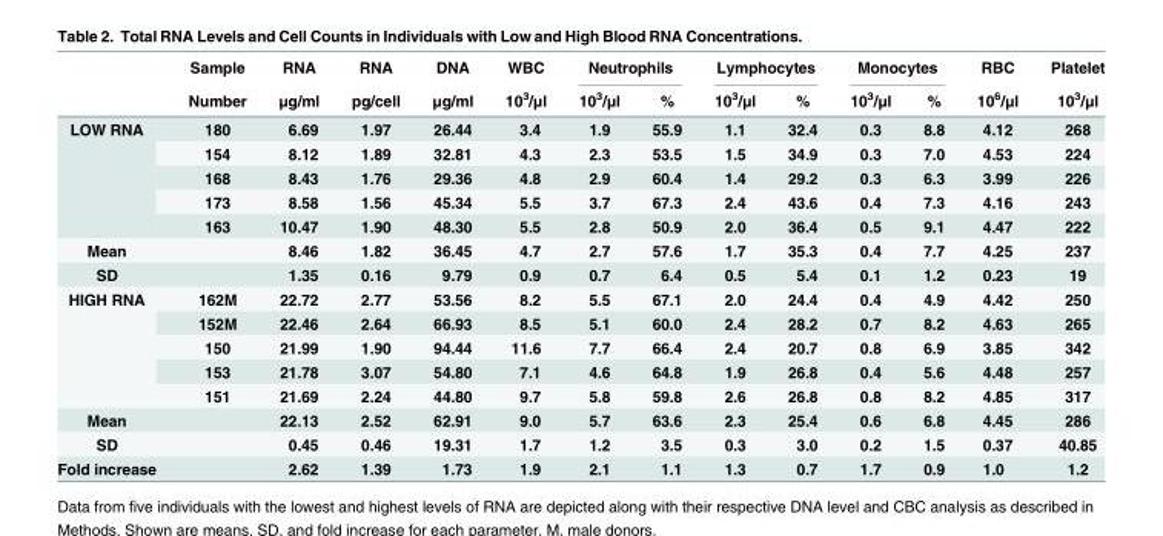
<table><thead><tr><td rowspan="2"></td><td rowspan="2">Sample Number</td><td rowspan="2">RNA μg/ml</td><td rowspan="2">RNA pg/cell</td><td rowspan="2">DNA μg/ml</td><td rowspan="2">WBC 10<sup>3</sup>/μl</td><td colspan="2">Neutrophils</td><td colspan="2">Lymphocytes</td><td colspan="2">Monocytes</td><td rowspan="2">RBC 10<sup>6</sup>/μl</td><td rowspan="2">Platelet 10<sup>3</sup>/μl</td></tr><tr><td>10<sup>3</sup>/μl</td><td>%</td><td>10<sup>3</sup>/μl</td><td>%</td><td>10<sup>3</sup>/μl</td><td>%</td></tr></thead><tbody><tr><td rowspan="5">LOW RNA</td><td>180</td><td>6.69</td><td>1.97</td><td>26.44</td><td>3.4</td><td>1.9</td><td>55.9</td><td>1.1</td><td>32.4</td><td>0.3</td><td>8.8</td><td>4.12</td><td>268</td></tr><tr><td>154</td><td>8.12</td><td>1.89</td><td>32.81</td><td>4.3</td><td>2.3</td><td>53.5</td><td>1.5</td><td>34.9</td><td>0.3</td><td>7.0</td><td>4.53</td><td>224</td></tr><tr><td>168</td><td>8.43</td><td>1.76</td><td>29.36</td><td>4.8</td><td>2.9</td><td>60.4</td><td>1.4</td><td>29.2</td><td>0.3</td><td>6.3</td><td>3.99</td><td>226</td></tr><tr><td>173</td><td>8.58</td><td>1.56</td><td>45.34</td><td>5.5</td><td>3.7</td><td>67.3</td><td>2.4</td><td>43.6</td><td>0.4</td><td>7.3</td><td>4.16</td><td>243</td></tr><tr><td>163</td><td>10.47</td><td>1.90</td><td>48.30</td><td>5.5</td><td>2.8</td><td>50.9</td><td>2.0</td><td>36.4</td><td>0.5</td><td>9.1</td><td>4.47</td><td>222</td></tr><tr><td>Mean</td><td></td><td>8.46</td><td>1.82</td><td>36.45</td><td>4.7</td><td>2.7</td><td>57.6</td><td>1.7</td><td>35.3</td><td>0.4</td><td>7.7</td><td>4.25</td><td>237</td></tr><tr><td>SD</td><td></td><td>1.35</td><td>0.16</td><td>9.79</td><td>0.9</td><td>0.7</td><td>6.4</td><td>0.5</td><td>5.4</td><td>0.1</td><td>1.2</td><td>0.23</td><td>19</td></tr><tr><td rowspan="5">HIGH RNA</td><td>162M</td><td>22.72</td><td>2.77</td><td>53.56</td><td>8.2</td><td>5.5</td><td>67.1</td><td>2.0</td><td>24.4</td><td>0.4</td><td>4.9</td><td>4.42</td><td>250</td></tr><tr><td>152M</td><td>22.46</td><td>2.64</td><td>66.93</td><td>8.5</td><td>5.1</td><td>60.0</td><td>2.4</td><td>28.2</td><td>0.7</td><td>8.2</td><td>4.63</td><td>265</td></tr><tr><td>150</td><td>21.99</td><td>1.90</td><td>94.44</td><td>11.6</td><td>7.7</td><td>66.4</td><td>2.4</td><td>20.7</td><td>0.8</td><td>6.9</td><td>3.85</td><td>342</td></tr><tr><td>153</td><td>21.78</td><td>3.07</td><td>54.80</td><td>7.1</td><td>4.6</td><td>64.8</td><td>1.9</td><td>26.8</td><td>0.4</td><td>5.6</td><td>4.48</td><td>257</td></tr><tr><td>151</td><td>21.69</td><td>2.24</td><td>44.80</td><td>9.7</td><td>5.8</td><td>59.8</td><td>2.6</td><td>26.8</td><td>0.8</td><td>8.2</td><td>4.85</td><td>317</td></tr><tr><td>Mean</td><td></td><td>22.13</td><td>2.52</td><td>62.91</td><td>9.0</td><td>5.7</td><td>63.6</td><td>2.3</td><td>25.4</td><td>0.6</td><td>6.8</td><td>4.45</td><td>286</td></tr><tr><td>SD</td><td></td><td>0.45</td><td>0.46</td><td>19.31</td><td>1.7</td><td>1.2</td><td>3.5</td><td>0.3</td><td>3.0</td><td>0.2</td><td>1.5</td><td>0.37</td><td>40.85</td></tr><tr><td>Fold increase</td><td></td><td>2.62</td><td>1.39</td><td>1.73</td><td>1.9</td><td>2.1</td><td>1.1</td><td>1.3</td><td>0.7</td><td>1.7</td><td>0.9</td><td>1.0</td><td>1.2</td></tr></tbody></table>